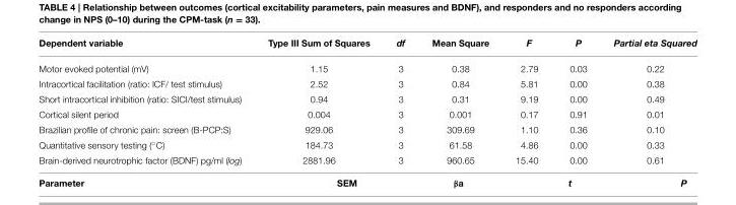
<table><thead><tr><td>Dependent variable</td><td>Type III Sum of Squares</td><td>df</td><td>Mean Square</td><td>F</td><td>P</td><td>Partial eta Squared</td></tr></thead><tbody><tr><td>Motor evoked potential (mV)</td><td>1.15</td><td>3</td><td>0.38</td><td>2.79</td><td>0.03</td><td>0.22</td></tr><tr><td>Intracortical facilitation (ratio: ICF/ test stimulus)</td><td>2.52</td><td>3</td><td>0.84</td><td>5.81</td><td>0.00</td><td>0.38</td></tr><tr><td>Short intracortical inhibition (ratio: SICI/test stimulus)</td><td>0.94</td><td>3</td><td>0.31</td><td>9.19</td><td>0.00</td><td>0.49</td></tr><tr><td>Cortical silent period</td><td>0.004</td><td>3</td><td>0.001</td><td>0.17</td><td>0.91</td><td>0.01</td></tr><tr><td>Brazilian profile of chronic pain: screen (B-PCP:S)</td><td>929.06</td><td>3</td><td>309.69</td><td>1.10</td><td>0.36</td><td>0.10</td></tr><tr><td>Quantitative sensory testing (◦C)</td><td>184.73</td><td>3</td><td>61.58</td><td>4.86</td><td>0.00</td><td>0.33</td></tr><tr><td>Brain-derived neurotrophic factor (BDNF) pg/ml (log)</td><td>2881.96</td><td>3</td><td>960.65</td><td>15.40</td><td>0.00</td><td>0.61</td></tr></tbody></table>